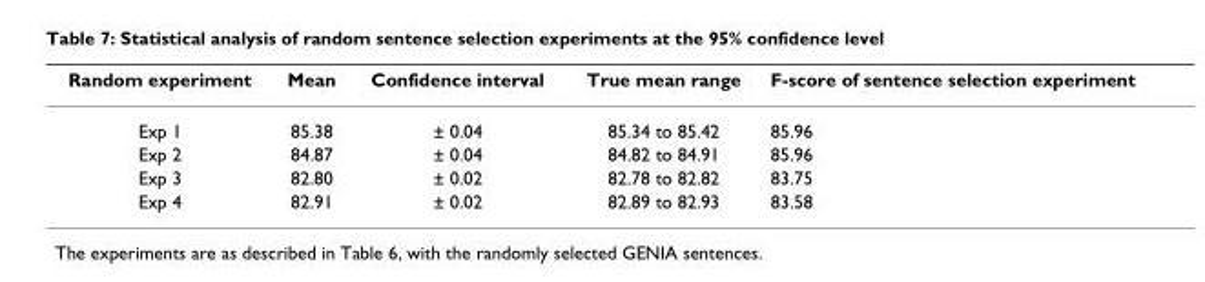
<table><thead><tr><td>Random experiment</td><td>Mean</td><td>Confidence interval</td><td>True mean range</td><td>F-score of sentence selection experiment</td></tr></thead><tbody><tr><td>Exp 1</td><td>85.38</td><td>± 0.04</td><td>85.34 to 85.42</td><td>85.96</td></tr><tr><td>Exp 2</td><td>84.87</td><td>± 0.04</td><td>84.82 to 84.91</td><td>85.96</td></tr><tr><td>Exp 3</td><td>82.80</td><td>± 0.02</td><td>82.78 to 82.82</td><td>83.75</td></tr><tr><td>Exp 4</td><td>82.91</td><td>± 0.02</td><td>82.89 to 82.93</td><td>83.58</td></tr></tbody></table>